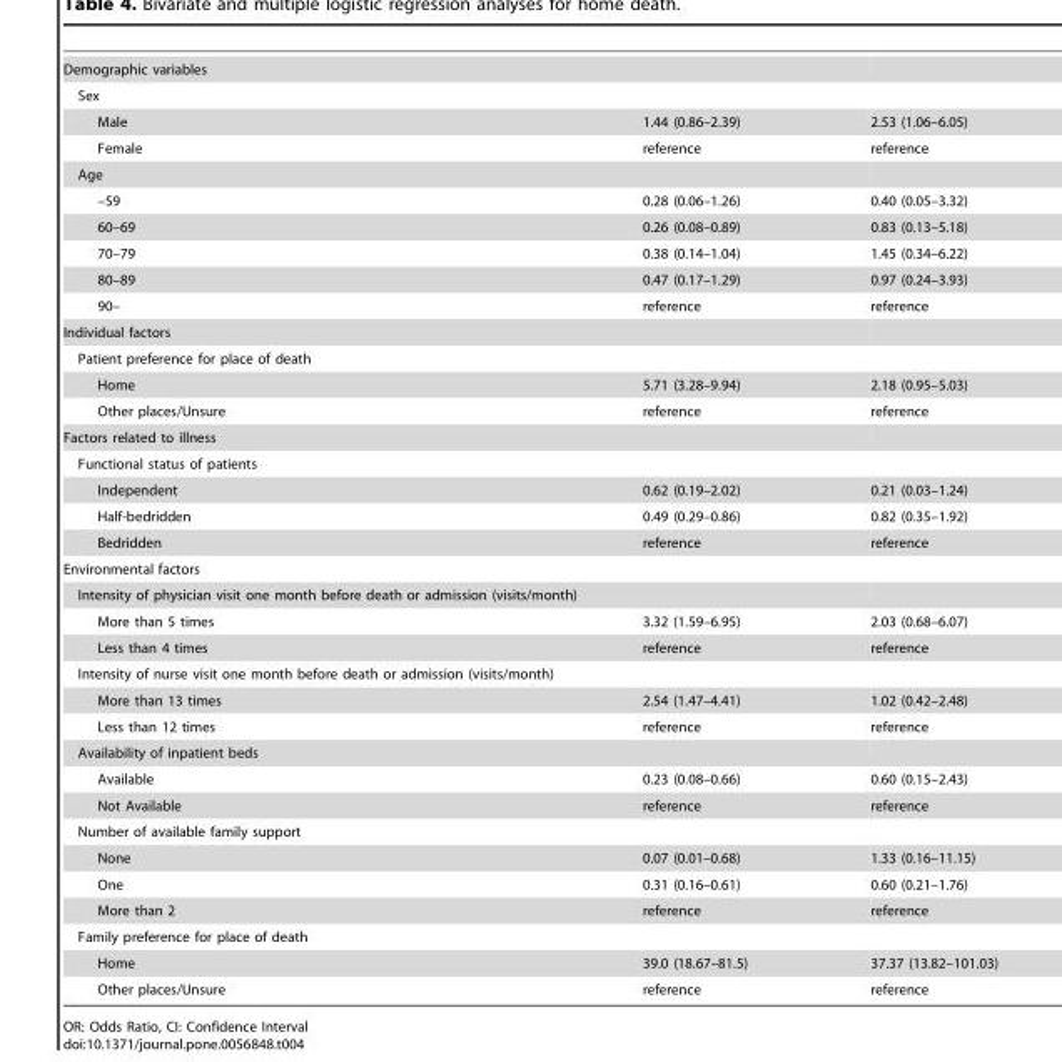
<table><tbody><tr><td colspan="3">Demographic variables</td></tr><tr><td colspan="3">Sex</td></tr><tr><td>Male</td><td>1.44 (0.86–2.39)</td><td>2.53 (1.06–6.05)</td></tr><tr><td>Female</td><td>reference</td><td>reference</td></tr><tr><td colspan="3">Age</td></tr><tr><td>–59</td><td>0.28 (0.06–1.26)</td><td>0.40 (0.05–3.32)</td></tr><tr><td>60–69</td><td>0.26 (0.08–0.89)</td><td>0.83 (0.13–5.18)</td></tr><tr><td>70–79</td><td>0.38 (0.14–1.04)</td><td>1.45 (0.34–6.22)</td></tr><tr><td>80–89</td><td>0.47 (0.17–1.29)</td><td>0.97 (0.24–3.93)</td></tr><tr><td>90–</td><td>reference</td><td>reference</td></tr><tr><td colspan="3">Individual factors</td></tr><tr><td colspan="3">Patient preference for place of death</td></tr><tr><td>Home</td><td>5.71 (3.28–9.94)</td><td>2.18 (0.95–5.03)</td></tr><tr><td>Other places/Unsure</td><td>reference</td><td>reference</td></tr><tr><td colspan="3">Factors related to illness</td></tr><tr><td colspan="3">Functional status of patients</td></tr><tr><td>Independent</td><td>0.62 (0.19–2.02)</td><td>0.21 (0.03–1.24)</td></tr><tr><td>Half-bedridden</td><td>0.49 (0.29–0.86)</td><td>0.82 (0.35–1.92)</td></tr><tr><td>Bedridden</td><td>reference</td><td>reference</td></tr><tr><td colspan="3">Environmental factors</td></tr><tr><td colspan="3">Intensity of physician visit one month before death or admission (visits/month)</td></tr><tr><td>More than 5 times</td><td>3.32 (1.59–6.95)</td><td>2.03 (0.68–6.07)</td></tr><tr><td>Less than 4 times</td><td>reference</td><td>reference</td></tr><tr><td colspan="3">Intensity of nurse visit one month before death or admission (visits/month)</td></tr><tr><td>More than 13 times</td><td>2.54 (1.47–4.41)</td><td>1.02 (0.42–2.48)</td></tr><tr><td>Less than 12 times</td><td>reference</td><td>reference</td></tr><tr><td colspan="3">Availability of inpatient beds</td></tr><tr><td>Available</td><td>0.23 (0.08–0.66)</td><td>0.60 (0.15–2.43)</td></tr><tr><td>Not Available</td><td>reference</td><td>reference</td></tr><tr><td colspan="3">Number of available family support</td></tr><tr><td>None</td><td>0.07 (0.01–0.68)</td><td>1.33 (0.16–11.15)</td></tr><tr><td>One</td><td>0.31 (0.16–0.61)</td><td>0.60 (0.21–1.76)</td></tr><tr><td>More than 2</td><td>reference</td><td>reference</td></tr><tr><td colspan="3">Family preference for place of death</td></tr><tr><td>Home</td><td>39.0 (18.67–81.5)</td><td>37.37 (13.82–101.03)</td></tr><tr><td>Other places/Unsure</td><td>reference</td><td>reference</td></tr></tbody></table>